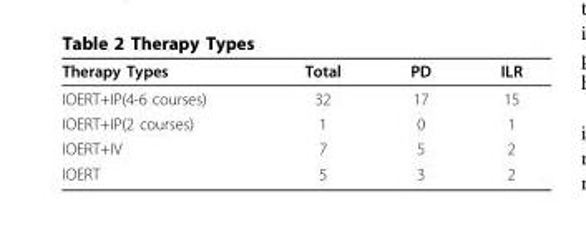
<table><thead><tr><td>Therapy Types</td><td>Total</td><td>PD</td><td>ILR</td></tr></thead><tbody><tr><td>IOERT+IP(4-6 courses)</td><td>32</td><td>17</td><td>15</td></tr><tr><td>IOERT+IP(2 courses)</td><td>1</td><td>0</td><td>1</td></tr><tr><td>IOERT+IV</td><td>7</td><td>5</td><td>2</td></tr><tr><td>IOERT</td><td>5</td><td>3</td><td>2</td></tr></tbody></table>